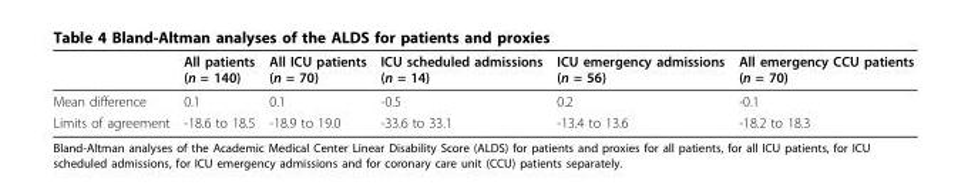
<table><thead><tr><td></td><td>All patients (n = 140)</td><td>All ICU patients (n = 70)</td><td>ICU scheduled admissions (n = 14)</td><td>ICU emergency admissions (n = 56)</td><td>All emergency CCU patients (n = 70)</td></tr></thead><tbody><tr><td>Mean difference</td><td>0.1</td><td>0.1</td><td>-0.5</td><td>0.2</td><td>-0.1</td></tr><tr><td>Limits of agreement</td><td>-18.6 to 18.5</td><td>-18.9 to 19.0</td><td>-33.6 to 33.1</td><td>-13.4 to 13.6</td><td>-18.2 to 18.3</td></tr></tbody></table>